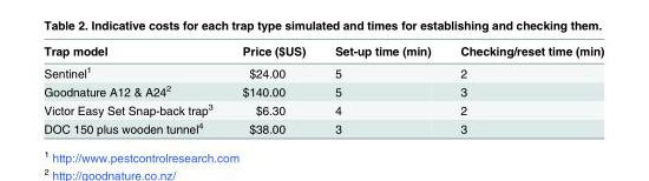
<table><thead><tr><td>Trap model</td><td>Price ($US)</td><td>Set-up time (min)</td><td>Checking/reset time (min)</td></tr></thead><tbody><tr><td>Sentinel<sup>1</sup></td><td>$24.00</td><td>5</td><td>2</td></tr><tr><td>Goodnature A12 &amp; A24<sup>2</sup></td><td>$140.00</td><td>5</td><td>3</td></tr><tr><td>Victor Easy Set Snap-back trap<sup>3</sup></td><td>$6.30</td><td>4</td><td>2</td></tr><tr><td>DOC 150 plus wooden tunnel<sup>4</sup></td><td>$38.00</td><td>3</td><td>3</td></tr></tbody></table>